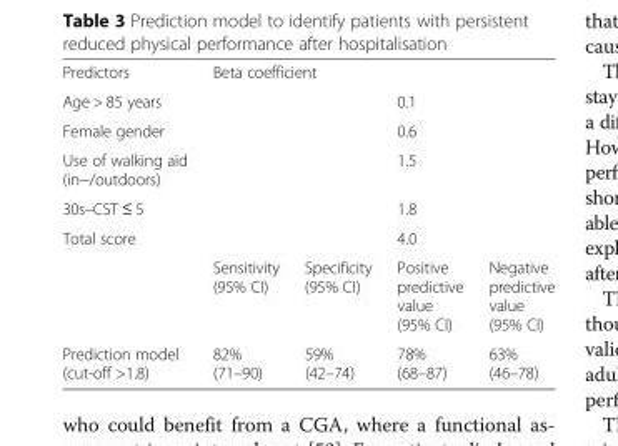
<table><tbody><tr><td>Predictors</td><td colspan="4">Beta coefficient</td></tr><tr><td>Age &gt; 85 years</td><td></td><td></td><td>0.1</td><td></td></tr><tr><td>Female gender</td><td></td><td></td><td>0.6</td><td></td></tr><tr><td>Use of walking aid (in−/outdoors)</td><td></td><td></td><td>1.5</td><td></td></tr><tr><td>30s–CST ≤ 5</td><td></td><td></td><td>1.8</td><td></td></tr><tr><td rowspan="2">Total score</td><td></td><td></td><td>4.0</td><td></td></tr><tr><td>Sensitivity (95% CI)</td><td>Specificity (95% CI)</td><td>Positive predictive value (95% CI)</td><td>Negative predictive value (95% CI)</td></tr><tr><td>Prediction model (cut-off &gt;1.8)</td><td>82% (71–90)</td><td>59% (42–74)</td><td>78% (68–87)</td><td>63% (46–78)</td></tr></tbody></table>